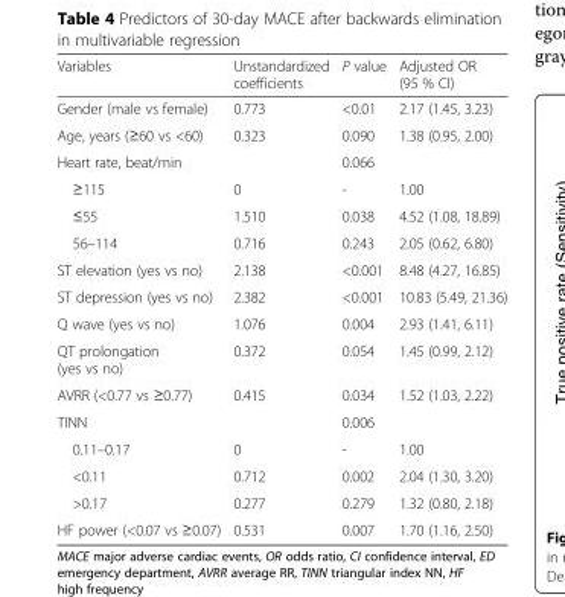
<table><thead><tr><td>Variables</td><td>Unstandardized coefficients</td><td>P value</td><td>Adjusted OR (95 % CI)</td></tr></thead><tbody><tr><td>Gender (male vs female)</td><td>0.773</td><td>&lt;0.01</td><td>2.17 (1.45, 3.23)</td></tr><tr><td>Age, years (≥60 vs &lt;60)</td><td>0.323</td><td>0.090</td><td>1.38 (0.95, 2.00)</td></tr><tr><td>Heart rate, beat/min</td><td></td><td>0.066</td><td></td></tr><tr><td>≥115</td><td>0</td><td>-</td><td>1.00</td></tr><tr><td>≤55</td><td>1.510</td><td>0.038</td><td>4.52 (1.08, 18.89)</td></tr><tr><td>56–114</td><td>0.716</td><td>0.243</td><td>2.05 (0.62, 6.80)</td></tr><tr><td>ST elevation (yes vs no)</td><td>2.138</td><td>&lt;0.001</td><td>8.48 (4.27, 16.85)</td></tr><tr><td>ST depression (yes vs no)</td><td>2.382</td><td>&lt;0.001</td><td>10.83 (5.49, 21.36)</td></tr><tr><td>Q wave (yes vs no)</td><td>1.076</td><td>0.004</td><td>2.93 (1.41, 6.11)</td></tr><tr><td>QT prolongation (yes vs no)</td><td>0.372</td><td>0.054</td><td>1.45 (0.99, 2.12)</td></tr><tr><td>AVRR (&lt;0.77 vs ≥0.77)</td><td>0.415</td><td>0.034</td><td>1.52 (1.03, 2.22)</td></tr><tr><td>TINN</td><td></td><td>0.006</td><td></td></tr><tr><td>0.11–0.17</td><td>0</td><td>-</td><td>1.00</td></tr><tr><td>&lt;0.11</td><td>0.712</td><td>0.002</td><td>2.04 (1.30, 3.20)</td></tr><tr><td>&gt;0.17</td><td>0.277</td><td>0.279</td><td>1.32 (0.80, 2.18)</td></tr><tr><td>HF power (&lt;0.07 vs ≥0.07)</td><td>0.531</td><td>0.007</td><td>1.70 (1.16, 2.50)</td></tr></tbody></table>